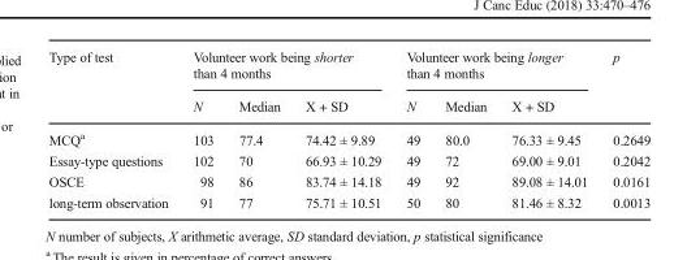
<table><thead><tr><td rowspan="2">Type of test</td><td colspan="3">Volunteer work being shorter than 4 months</td><td colspan="3">Volunteer work being longer than 4 months</td><td rowspan="2">p</td></tr><tr><td>N</td><td>Median</td><td>X + SD</td><td>N</td><td>Median</td><td>X + SD</td></tr></thead><tbody><tr><td>MCQ<sup>a</sup></td><td>103</td><td>77.4</td><td>74.42 ± 9.89</td><td>49</td><td>80.0</td><td>76.33 ± 9.45</td><td>0.2649</td></tr><tr><td>Essay-type questions</td><td>102</td><td>70</td><td>66.93 ± 10.29</td><td>49</td><td>72</td><td>69.00 ± 9.01</td><td>0.2042</td></tr><tr><td>OSCE</td><td>98</td><td>86</td><td>83.74 ± 14.18</td><td>49</td><td>92</td><td>89.08 ± 14.01</td><td>0.0161</td></tr><tr><td>long-term observation</td><td>91</td><td>77</td><td>75.71 ± 10.51</td><td>50</td><td>80</td><td>81.46 ± 8.32</td><td>0.0013</td></tr></tbody></table>